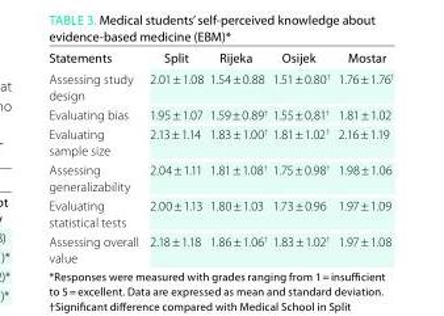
<table><thead><tr><td>statements</td><td>split</td><td>Rijeka</td><td>Osijek</td><td>Mostar</td></tr></thead><tbody><tr><td>Assessing study design</td><td>2.01 ± 1.08</td><td>1.54 ± 0.88</td><td>1.51 ± 0.80<sup>†</sup></td><td>1.76 ± 1.76<sup>†</sup></td></tr><tr><td>Evaluating bias</td><td>1.95 ± 1.07</td><td>1.59 ± 0.89<sup>†</sup></td><td>1.55 ± 0,81<sup>†</sup></td><td>1.81 ± 1.02</td></tr><tr><td>Evaluating sample size</td><td>2.13 ± 1.14</td><td>1.83 ± 1.00<sup>†</sup></td><td>1.81 ± 1.02<sup>†</sup></td><td>2.16 ± 1.19</td></tr><tr><td>Assessing generalizability</td><td>2.04 ± 1.11</td><td>1.81 ± 1.08<sup>†</sup></td><td>1.75 ± 0.98<sup>†</sup></td><td>1.98 ± 1.06</td></tr><tr><td>Evaluating statistical tests</td><td>2.00 ± 1.13</td><td>1.80 ± 1.03</td><td>1.73 ± 0.96</td><td>1.97 ± 1.09</td></tr><tr><td>Assessing overall value</td><td>2.18 ± 1.18</td><td>1.86 ± 1.06<sup>†</sup></td><td>1.83 ± 1.02<sup>†</sup></td><td>1.97 ± 1.08</td></tr></tbody></table>